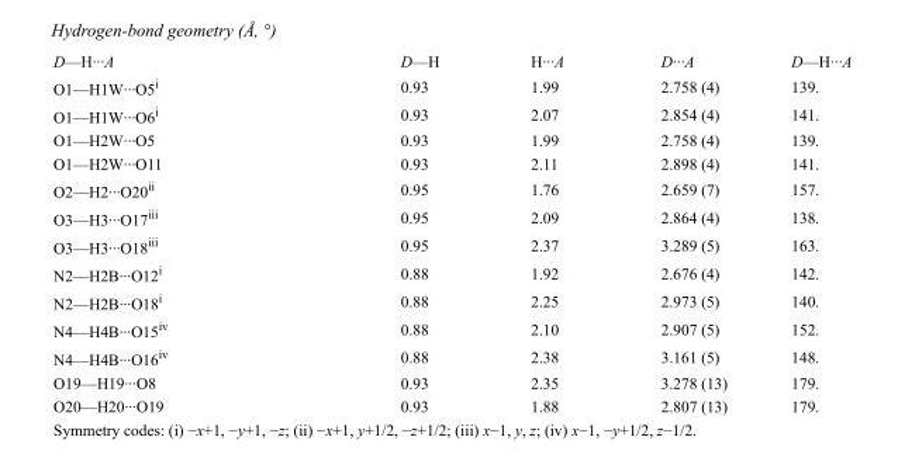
<table><tbody><tr><td>D—H···A</td><td>D—H</td><td>H···A</td><td>D···A</td><td>D—H···A</td></tr><tr><td>O1—H1W···O5<sup>i</sup></td><td>0.93</td><td>1.99</td><td>2.758 (4)</td><td>139.</td></tr><tr><td>O1—H1W···O6<sup>i</sup></td><td>0.93</td><td>2.07</td><td>2.854 (4)</td><td>141.</td></tr><tr><td>O1—H2W···O5</td><td>0.93</td><td>1.99</td><td>2.758 (4)</td><td>139.</td></tr><tr><td>O1—H2W···O11</td><td>0.93</td><td>2.11</td><td>2.898 (4)</td><td>141.</td></tr><tr><td>O2—H2···O20<sup>ii</sup></td><td>0.95</td><td>1.76</td><td>2.659 (7)</td><td>157.</td></tr><tr><td>O3—H3···O17<sup>iii</sup></td><td>0.95</td><td>2.09</td><td>2.864 (4)</td><td>138.</td></tr><tr><td>O3—H3···O18<sup>iii</sup></td><td>0.95</td><td>2.37</td><td>3.289 (5)</td><td>163.</td></tr><tr><td>N2—H2B···O12<sup>i</sup></td><td>0.88</td><td>1.92</td><td>2.676 (4)</td><td>142.</td></tr><tr><td>N2—H2B···O18<sup>i</sup></td><td>0.88</td><td>2.25</td><td>2.973 (5)</td><td>140.</td></tr><tr><td>N4—H4B···O15<sup>iv</sup></td><td>0.88</td><td>2.10</td><td>2.907 (5)</td><td>152.</td></tr><tr><td>N4—H4B···O16<sup>iv</sup></td><td>0.88</td><td>2.38</td><td>3.161 (5)</td><td>148.</td></tr><tr><td>O19—H19···O8</td><td>0.93</td><td>2.35</td><td>3.278 (13)</td><td>179.</td></tr><tr><td>O20—H20···O19</td><td>0.93</td><td>1.88</td><td>2.807 (13)</td><td>179.</td></tr></tbody></table>